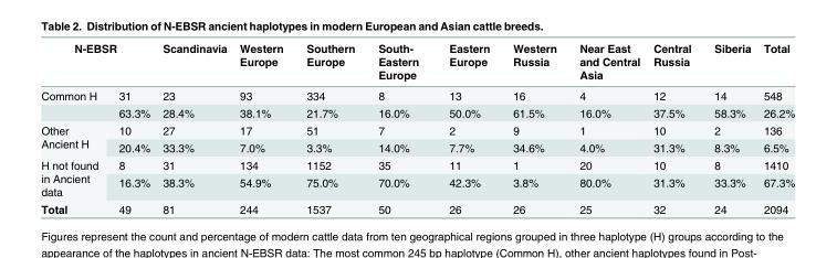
<table><thead><tr><td colspan="2">N-EBSR</td><td rowspan="2">Scandinavia 23</td><td rowspan="2">Western Europe 93</td><td rowspan="2">Southern Europe 334</td><td rowspan="2">South- Eastern Europe 8</td><td rowspan="2">Eastern Europe 13</td><td rowspan="2">Western Russia 16</td><td rowspan="2">Near East and Central Asia 4</td><td rowspan="2">Central Russia 12</td><td rowspan="2">Siberia 14</td><td rowspan="2">Total 548</td></tr><tr><td>Common H</td><td>31</td></tr></thead><tbody><tr><td></td><td>63.3%</td><td>28.4%</td><td>38.1%</td><td>21.7%</td><td>16.0%</td><td>50.0%</td><td>61.5%</td><td>16.0%</td><td>37.5%</td><td>58.3%</td><td>26.2%</td></tr><tr><td rowspan="2">Other Ancient H</td><td>10</td><td>27</td><td>17</td><td>51</td><td>7</td><td>2</td><td>9</td><td>1</td><td>10</td><td>2</td><td>136</td></tr><tr><td>20.4%</td><td>33.3%</td><td>7.0%</td><td>3.3%</td><td>14.0%</td><td>7.7%</td><td>34.6%</td><td>4.0%</td><td>31.3%</td><td>8.3%</td><td>6.5%</td></tr><tr><td rowspan="2">H not found in Ancient data</td><td>8</td><td>31</td><td>134</td><td>1152</td><td>35</td><td>11</td><td>1</td><td>20</td><td>10</td><td>8</td><td>1410</td></tr><tr><td>16.3%</td><td>38.3%</td><td>54.9%</td><td>75.0%</td><td>70.0%</td><td>42.3%</td><td>3.8%</td><td>80.0%</td><td>31.3%</td><td>33.3%</td><td>67.3%</td></tr><tr><td>Total</td><td>49</td><td>81</td><td>244</td><td>1537</td><td>50</td><td>26</td><td>26</td><td>25</td><td>32</td><td>24</td><td>2094</td></tr></tbody></table>